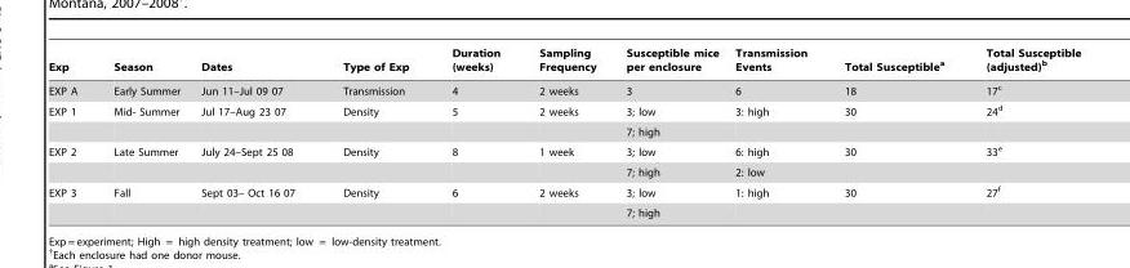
<table><thead><tr><td>Exp</td><td>Season</td><td>Dates</td><td>Type of Exp</td><td>Duration (weeks)</td><td>Sampling Frequency</td><td>Susceptible mice per enclosure</td><td>Transmission Events</td><td>Total Susceptible<sup>a</sup></td><td>Total Susceptible (adjusted)<sup>b</sup></td></tr></thead><tbody><tr><td>EXP A</td><td>Early Summer</td><td>Jun 11–Jul 09 07</td><td>Transmission</td><td>4</td><td>2 weeks</td><td>3</td><td>6</td><td>18</td><td>17<sup>c</sup></td></tr><tr><td rowspan="2">EXP 1</td><td>Mid- Summer</td><td>Jul 17–Aug 23 07</td><td>Density</td><td>5</td><td>2 weeks</td><td>3; low</td><td>3: high</td><td>30</td><td>24<sup>d</sup></td></tr><tr><td></td><td></td><td></td><td></td><td></td><td>7; high</td><td></td><td></td><td></td></tr><tr><td rowspan="2">EXP 2</td><td>Late Summer</td><td>July 24–Sept 25 08</td><td>Density</td><td>8</td><td>1 week</td><td>3; low</td><td>6: high</td><td>30</td><td>33<sup>e</sup></td></tr><tr><td></td><td></td><td></td><td></td><td></td><td>7; high</td><td>2: low</td><td></td><td></td></tr><tr><td rowspan="2">EXP 3</td><td>Fall</td><td>Sept 03– Oct 16 07</td><td>Density</td><td>6</td><td>2 weeks</td><td>3; low</td><td>1: high</td><td>30</td><td>27<sup>f</sup></td></tr><tr><td></td><td></td><td></td><td></td><td></td><td>7; high</td><td></td><td></td><td></td></tr></tbody></table>